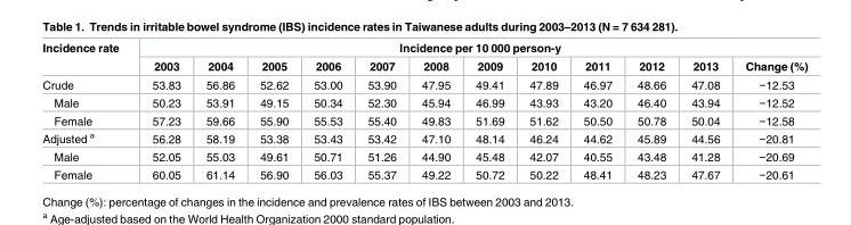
<table><thead><tr><td rowspan="2">Incidence rate</td><td colspan="12">Incidence per 10 000 person-y</td></tr><tr><td>2003</td><td>2004</td><td>2005</td><td>2006</td><td>2007</td><td>2008</td><td>2009</td><td>2010</td><td>2011</td><td>2012</td><td>2013</td><td>Change (%)</td></tr></thead><tbody><tr><td>Crude</td><td>53.83</td><td>56.86</td><td>52.62</td><td>53.00</td><td>53.90</td><td>47.95</td><td>49.41</td><td>47.89</td><td>46.97</td><td>48.66</td><td>47.08</td><td>−12.53</td></tr><tr><td>Male</td><td>50.23</td><td>53.91</td><td>49.15</td><td>50.34</td><td>52.30</td><td>45.94</td><td>46.99</td><td>43.93</td><td>43.20</td><td>46.40</td><td>43.94</td><td>−12.52</td></tr><tr><td>Female</td><td>57.23</td><td>59.66</td><td>55.90</td><td>55.53</td><td>55.40</td><td>49.83</td><td>51.69</td><td>51.62</td><td>50.50</td><td>50.78</td><td>50.04</td><td>−12.58</td></tr><tr><td>Adjusted <sup>a</sup></td><td>56.28</td><td>58.19</td><td>53.38</td><td>53.43</td><td>53.42</td><td>47.10</td><td>48.14</td><td>46.24</td><td>44.62</td><td>45.89</td><td>44.56</td><td>−20.81</td></tr><tr><td>Male</td><td>52.05</td><td>55.03</td><td>49.61</td><td>50.71</td><td>51.26</td><td>44.90</td><td>45.48</td><td>42.07</td><td>40.55</td><td>43.48</td><td>41.28</td><td>−20.69</td></tr><tr><td>Female</td><td>60.05</td><td>61.14</td><td>56.90</td><td>56.03</td><td>55.37</td><td>49.22</td><td>50.72</td><td>50.22</td><td>48.41</td><td>48.23</td><td>47.67</td><td>−20.61</td></tr></tbody></table>